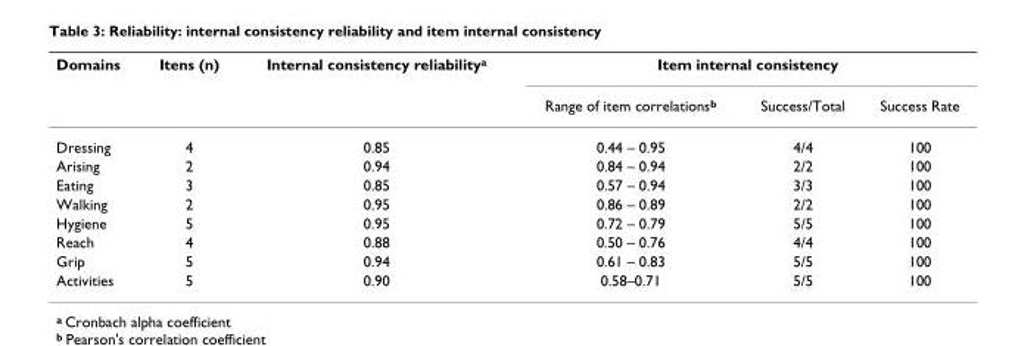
<table><thead><tr><td rowspan="2">Domains</td><td rowspan="2">Itens (n)</td><td rowspan="2">Internal consistency reliability<sup>a</sup></td><td colspan="3">Item internal consistency</td></tr><tr><td>Range of item correlations<sup>b</sup></td><td>Success/Total</td><td>Success Rate</td></tr></thead><tbody><tr><td>Dressing</td><td>4</td><td>0.85</td><td>0.44 – 0.95</td><td>4/4</td><td>100</td></tr><tr><td>Arising</td><td>2</td><td>0.94</td><td>0.84 – 0.94</td><td>2/2</td><td>100</td></tr><tr><td>Eating</td><td>3</td><td>0.85</td><td>0.57 – 0.94</td><td>3/3</td><td>100</td></tr><tr><td>Walking</td><td>2</td><td>0.95</td><td>0.86 – 0.89</td><td>2/2</td><td>100</td></tr><tr><td>Hygiene</td><td>5</td><td>0.95</td><td>0.72 – 0.79</td><td>5/5</td><td>100</td></tr><tr><td>Reach</td><td>4</td><td>0.88</td><td>0.50 – 0.76</td><td>4/4</td><td>100</td></tr><tr><td>Grip</td><td>5</td><td>0.94</td><td>0.61 – 0.83</td><td>5/5</td><td>100</td></tr><tr><td>Activities</td><td>5</td><td>0.90</td><td>0.58–0.71</td><td>5/5</td><td>100</td></tr></tbody></table>